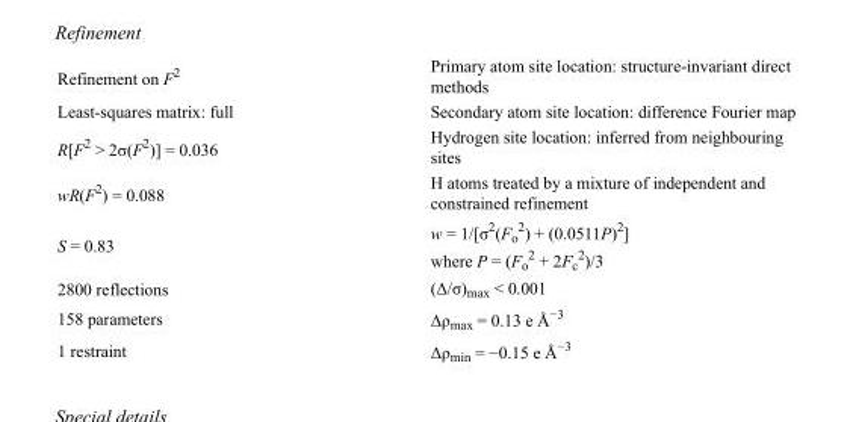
<table><tbody><tr><td>Refinement on F<sup>2</sup></td><td>Primary atom site location: structure-invariant direct methods</td></tr><tr><td>Least-squares matrix: full</td><td>Secondary atom site location: difference Fourier map</td></tr><tr><td>R[F<sup>2</sup> &gt; 2σ(F<sup>2</sup>)] = 0.036</td><td>Hydrogen site location: inferred from neighbouring sites</td></tr><tr><td>wR(F<sup>2</sup>) = 0.088</td><td>H atoms treated by a mixture of independent and constrained refinement</td></tr><tr><td>S = 0.83</td><td>w = 1/[σ<sup>2</sup>(F<sub>o</sub> <sup>2</sup>) + (0.0511P)<sup>2</sup>] where P = (F<sub>o</sub> <sup>2</sup> + 2F<sub>c</sub> <sup>2</sup>)/3</td></tr><tr><td>2800 reflections</td><td>(Δ/σ)<sub>max</sub> &lt; 0.001</td></tr><tr><td>158 parameters</td><td>Δρ<sub>max</sub> = 0.13 e Å<sup>−3</sup></td></tr><tr><td>1 restraint</td><td>Δρ<sub>min</sub> = −0.15 e Å<sup>−3</sup></td></tr></tbody></table>